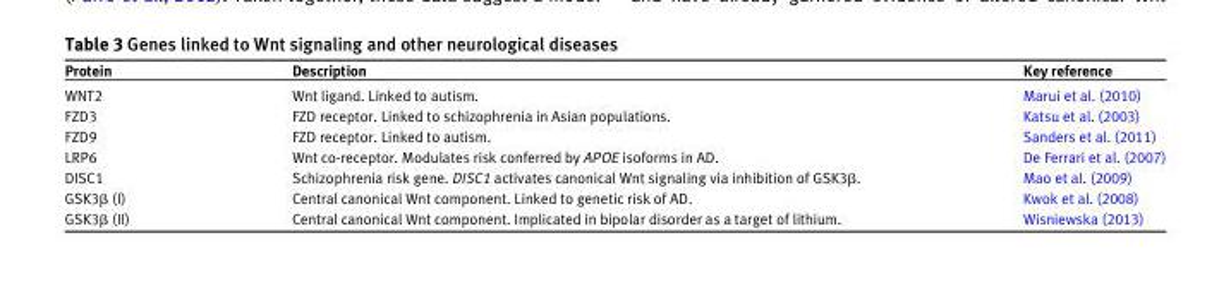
<table><thead><tr><td>Protein</td><td>Description</td><td>Key reference</td></tr></thead><tbody><tr><td>WNT2</td><td>Wnt ligand. Linked to autism.</td><td>Marui et al. (2010)</td></tr><tr><td>FZD3</td><td>FZD receptor. Linked to schizophrenia in Asian populations.</td><td>Katsu et al. (2003)</td></tr><tr><td>FZD9</td><td>FZD receptor. Linked to autism.</td><td>Sanders et al. (2011)</td></tr><tr><td>LRP6</td><td>Wnt co-receptor. Modulates risk conferred by APOE isoforms in AD.</td><td>De Ferrari et al. (2007)</td></tr><tr><td>DISC1</td><td>Schizophrenia risk gene. DISC1 activates canonical Wnt signaling via inhibition of GSK3β.</td><td>Mao et al. (2009)</td></tr><tr><td>GSK3β (I)</td><td>Central canonical Wnt component. Linked to genetic risk of AD.</td><td>Kwok et al. (2008)</td></tr><tr><td>GSK3β (II)</td><td>Central canonical Wnt component. Implicated in bipolar disorder as a target of lithium.</td><td>Wisniewska (2013)</td></tr></tbody></table>